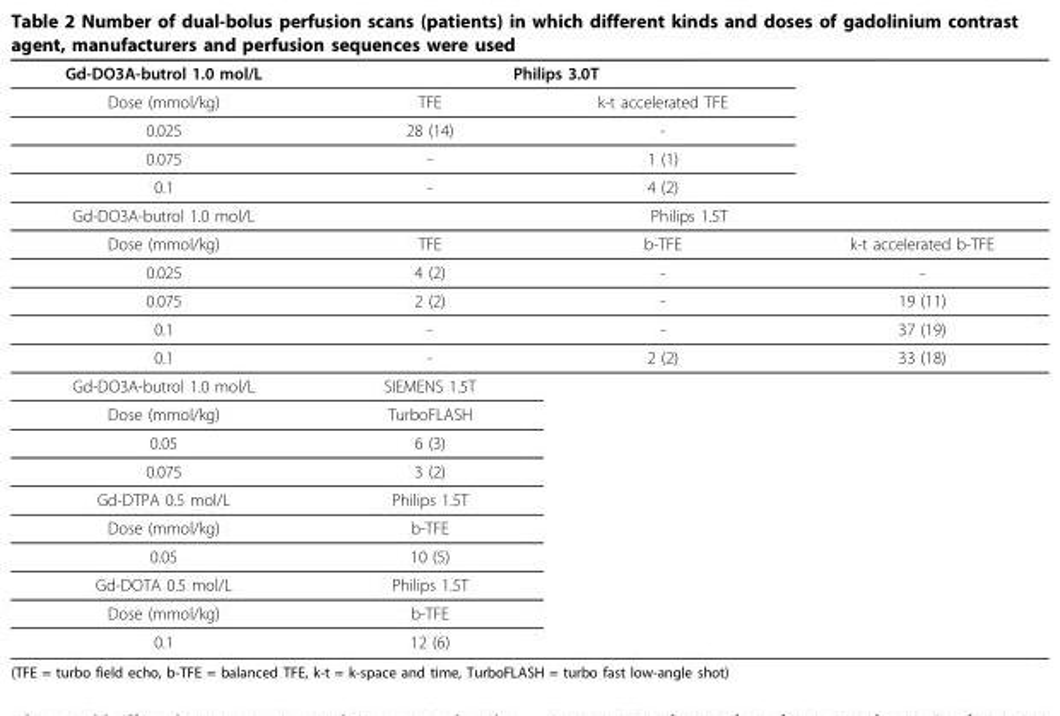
<table><thead><tr><td rowspan="5">Gd-DO3A-butrol 1.0 mol/L Dose (mmol/kg) 0.025 0.075 0.1</td><td colspan="2">Philips 3.0T</td><td rowspan="5"></td></tr><tr><td rowspan="4">TFE 28 (14) - -</td><td rowspan="4">k-t accelerated TFE - 1 (1) 4 (2)</td></tr><tr></tr><tr></tr><tr></tr></thead><tbody><tr><td>Gd-DO3A-butrol 1.0 mol/L</td><td colspan="3">Philips 1.5T</td></tr><tr><td>Dose (mmol/kg)</td><td>TFE</td><td>b-TFE</td><td>k-t accelerated b-TFE</td></tr><tr><td>0.025</td><td>4 (2)</td><td>-</td><td>-</td></tr><tr><td>0.075</td><td>2 (2)</td><td>-</td><td>19 (11)</td></tr><tr><td>0.1</td><td>-</td><td>-</td><td>37 (19)</td></tr><tr><td>0.1</td><td>-</td><td>2 (2)</td><td>33 (18)</td></tr><tr><td>Gd-DO3A-butrol 1.0 mol/L</td><td>SIEMENS 1.5T</td><td></td><td></td></tr><tr><td>Dose (mmol/kg)</td><td>TurboFLASH</td><td></td><td></td></tr><tr><td>0.05</td><td>6 (3)</td><td></td><td></td></tr><tr><td>0.075</td><td>3 (2)</td><td></td><td></td></tr><tr><td>Gd-DTPA 0.5 mol/L</td><td>Philips 1.5T</td><td></td><td></td></tr><tr><td>Dose (mmol/kg)</td><td>b-TFE</td><td></td><td></td></tr><tr><td>0.05</td><td>10 (5)</td><td></td><td></td></tr><tr><td>Gd-DOTA 0.5 mol/L</td><td>Philips 1.5T</td><td></td><td></td></tr><tr><td>Dose (mmol/kg)</td><td>b-TFE</td><td></td><td></td></tr><tr><td>0.1</td><td>12 (6)</td><td></td><td></td></tr></tbody></table>